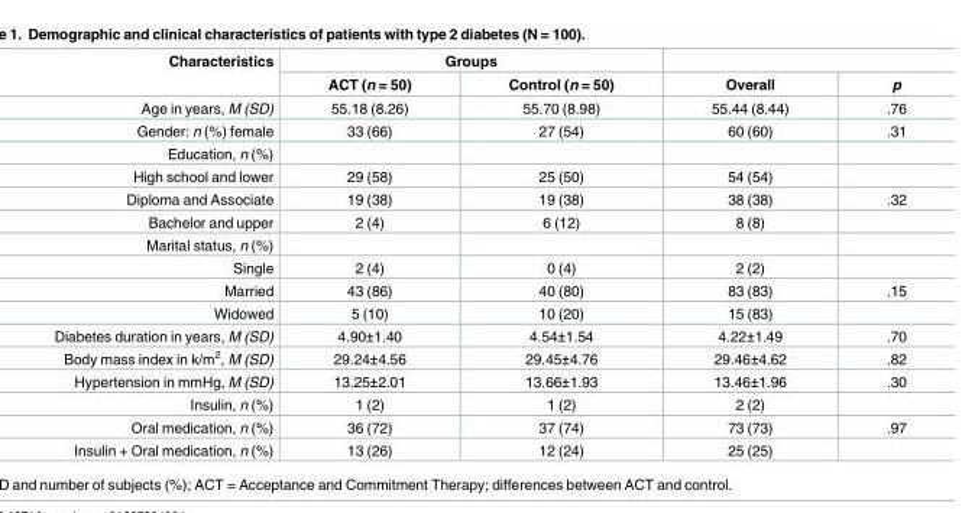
<table><thead><tr><td rowspan="2">Characteristics</td><td colspan="2">Groups</td><td rowspan="2">Overall</td><td rowspan="2">p</td></tr><tr><td>ACT (n = 50)</td><td>Control (n = 50)</td></tr></thead><tbody><tr><td>Age in years, M (SD)</td><td>55.18 (8.26)</td><td>55.70 (8.98)</td><td>55.44 (8.44)</td><td>.76</td></tr><tr><td>Gender: n (%) female</td><td>33 (66)</td><td>27 (54)</td><td>60 (60)</td><td>.31</td></tr><tr><td colspan="5">Education, n (%)</td></tr><tr><td>High school and lower</td><td>29 (58)</td><td>25 (50)</td><td>54 (54)</td><td></td></tr><tr><td>Diploma and Associate</td><td>19 (38)</td><td>19 (38)</td><td>38 (38)</td><td>.32</td></tr><tr><td>Bachelor and upper</td><td>2 (4)</td><td>6 (12)</td><td>8 (8)</td><td></td></tr><tr><td colspan="5">Marital status, n (%)</td></tr><tr><td>Single</td><td>2 (4)</td><td>0 (4)</td><td>2 (2)</td><td></td></tr><tr><td>Married</td><td>43 (86)</td><td>40 (80)</td><td>83 (83)</td><td>.15</td></tr><tr><td>Widowed</td><td>5 (10)</td><td>10 (20)</td><td>15 (83)</td><td></td></tr><tr><td>Diabetes duration in years, M (SD)</td><td>4.90±1.40</td><td>4.54±1.54</td><td>4.22±1.49</td><td>.70</td></tr><tr><td>Body mass index in k/m<sup>2</sup>, M (SD)</td><td>29.24±4.56</td><td>29.45±4.76</td><td>29.46±4.62</td><td>.82</td></tr><tr><td>Hypertension in mmHg, M (SD)</td><td>13.25±2.01</td><td>13.66±1.93</td><td>13.46±1.96</td><td>.30</td></tr><tr><td>Insulin, n (%)</td><td>1 (2)</td><td>1 (2)</td><td>2 (2)</td><td></td></tr><tr><td>Oral medication, n (%)</td><td>36 (72)</td><td>37 (74)</td><td>73 (73)</td><td>.97</td></tr><tr><td>Insulin + Oral medication, n (%)</td><td>13 (26)</td><td>12 (24)</td><td>25 (25)</td><td></td></tr></tbody></table>